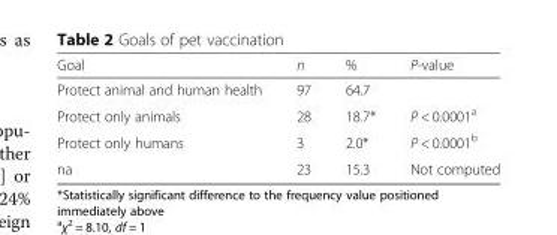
<table><thead><tr><td>Goal</td><td>n</td><td>%</td><td>P-value</td></tr></thead><tbody><tr><td>Protect animal and human health</td><td>97</td><td>64.7</td><td></td></tr><tr><td>Protect only animals</td><td>28</td><td>18.7*</td><td>P &lt; 0.0001<sup>a</sup></td></tr><tr><td>Protect only humans</td><td>3</td><td>2.0*</td><td>P &lt; 0.0001<sup>b</sup></td></tr><tr><td>na</td><td>23</td><td>15.3</td><td>Not computed</td></tr></tbody></table>